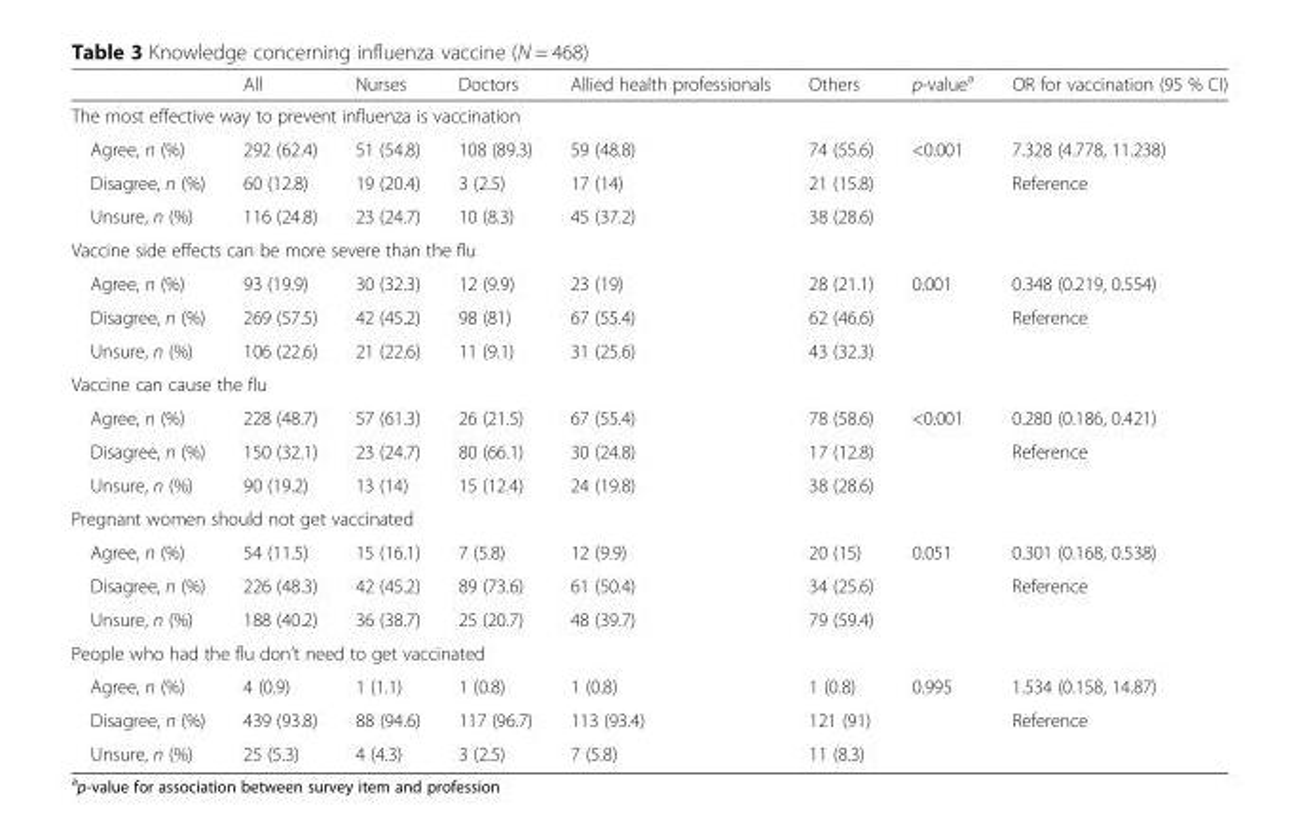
<table><thead><tr><td></td><td>All</td><td>Nurses</td><td>Doctors</td><td>Allied health professionals</td><td>Others</td><td>p-value<sup>a</sup></td><td>OR for vaccination (95 % CI)</td></tr></thead><tbody><tr><td colspan="8">The most effective way to prevent influenza is vaccination</td></tr><tr><td>Agree, n (%)</td><td>292 (62.4)</td><td>51 (54.8)</td><td>108 (89.3)</td><td>59 (48.8)</td><td>74 (55.6)</td><td rowspan="3">&lt;0.001</td><td>7.328 (4.778, 11.238)</td></tr><tr><td>Disagree, n (%)</td><td>60 (12.8)</td><td>19 (20.4)</td><td>3 (2.5)</td><td>17 (14)</td><td>21 (15.8)</td><td rowspan="2">Reference</td></tr><tr><td>Unsure, n (%)</td><td>116 (24.8)</td><td>23 (24.7)</td><td>10 (8.3)</td><td>45 (37.2)</td><td>38 (28.6)</td></tr><tr><td colspan="8">Vaccine side effects can be more severe than the flu</td></tr><tr><td>Agree, n (%)</td><td>93 (19.9)</td><td>30 (32.3)</td><td>12 (9.9)</td><td>23 (19)</td><td>28 (21.1)</td><td rowspan="3">0.001</td><td>0.348 (0.219, 0.554)</td></tr><tr><td>Disagree, n (%)</td><td>269 (57.5)</td><td>42 (45.2)</td><td>98 (81)</td><td>67 (55.4)</td><td>62 (46.6)</td><td rowspan="2">Reference</td></tr><tr><td>Unsure, n (%)</td><td>106 (22.6)</td><td>21 (22.6)</td><td>11 (9.1)</td><td>31 (25.6)</td><td>43 (32.3)</td></tr><tr><td colspan="8">Vaccine can cause the flu</td></tr><tr><td>Agree, n (%)</td><td>228 (48.7)</td><td>57 (61.3)</td><td>26 (21.5)</td><td>67 (55.4)</td><td>78 (58.6)</td><td rowspan="3">&lt;0.001</td><td>0.280 (0.186, 0.421)</td></tr><tr><td>Disagree, n (%)</td><td>150 (32.1)</td><td>23 (24.7)</td><td>80 (66.1)</td><td>30 (24.8)</td><td>17 (12.8)</td><td rowspan="2">Reference</td></tr><tr><td>Unsure, n (%)</td><td>90 (19.2)</td><td>13 (14)</td><td>15 (12.4)</td><td>24 (19.8)</td><td>38 (28.6)</td></tr><tr><td colspan="8">Pregnant women should not get vaccinated</td></tr><tr><td>Agree, n (%)</td><td>54 (11.5)</td><td>15 (16.1)</td><td>7 (5.8)</td><td>12 (9.9)</td><td>20 (15)</td><td rowspan="3">0.051</td><td>0.301 (0.168, 0.538)</td></tr><tr><td>Disagree, n (%)</td><td>226 (48.3)</td><td>42 (45.2)</td><td>89 (73.6)</td><td>61 (50.4)</td><td>34 (25.6)</td><td rowspan="2">Reference</td></tr><tr><td>Unsure, n (%)</td><td>188 (40.2)</td><td>36 (38.7)</td><td>25 (20.7)</td><td>48 (39.7)</td><td>79 (59.4)</td></tr><tr><td colspan="8">People who had the flu don’t need to get vaccinated</td></tr><tr><td>Agree, n (%)</td><td>4 (0.9)</td><td>1 (1.1)</td><td>1 (0.8)</td><td>1 (0.8)</td><td>1 (0.8)</td><td rowspan="3">0.995</td><td>1.534 (0.158, 14.87)</td></tr><tr><td>Disagree, n (%)</td><td>439 (93.8)</td><td>88 (94.6)</td><td>117 (96.7)</td><td>113 (93.4)</td><td>121 (91)</td><td rowspan="2">Reference</td></tr><tr><td>Unsure, n (%)</td><td>25 (5.3)</td><td>4 (4.3)</td><td>3 (2.5)</td><td>7 (5.8)</td><td>11 (8.3)</td></tr></tbody></table>